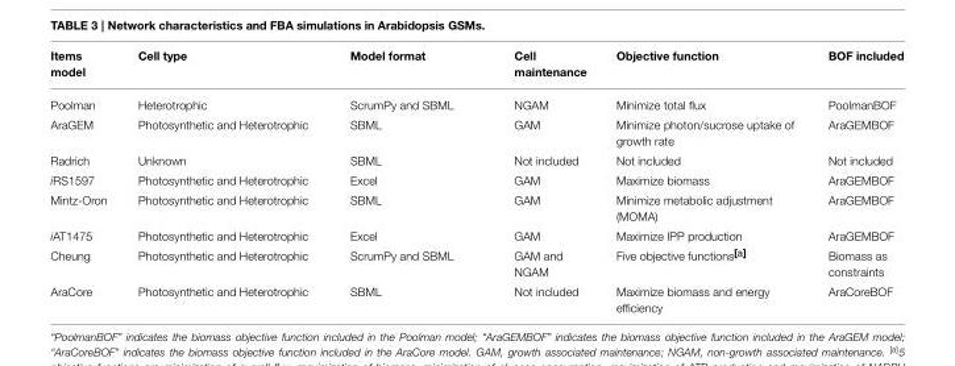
<table><thead><tr><td>Items model</td><td>Cell type</td><td>Model format</td><td>Cell maintenance</td><td>Objective function</td><td>BOF included</td></tr></thead><tbody><tr><td>Poolman</td><td>Heterotrophic</td><td>ScrumPy and SBML</td><td>NGAM</td><td>Minimize total flux</td><td>PoolmanBOF</td></tr><tr><td>AraGEM</td><td>Photosynthetic and Heterotrophic</td><td>SBML</td><td>GAM</td><td>Minimize photon/sucrose uptake of growth rate</td><td>AraGEMBOF</td></tr><tr><td>Radrich</td><td>Unknown</td><td>SBML</td><td>Not included</td><td>Not included</td><td>Not included</td></tr><tr><td>iRS1597</td><td>Photosynthetic and Heterotrophic</td><td>Excel</td><td>GAM</td><td>Maximize biomass</td><td>AraGEMBOF</td></tr><tr><td>Mintz-Oron</td><td>Photosynthetic and Heterotrophic</td><td>SBML</td><td>GAM</td><td>Minimize metabolic adjustment (MOMA)</td><td>AraGEMBOF</td></tr><tr><td>iAT1475</td><td>Photosynthetic and Heterotrophic</td><td>Excel</td><td>GAM</td><td>Maximize IPP production</td><td>AraGEMBOF</td></tr><tr><td>Cheung</td><td>Photosynthetic and Heterotrophic</td><td>ScrumPy and SBML</td><td>GAM and NGAM</td><td>Five objective functions<sup>[a]</sup></td><td>Biomass as constraints</td></tr><tr><td>AraCore</td><td>Photosynthetic and Heterotrophic</td><td>SBML</td><td>Not included</td><td>Maximize biomass and energy efficiency</td><td>AraCoreBOF</td></tr></tbody></table>